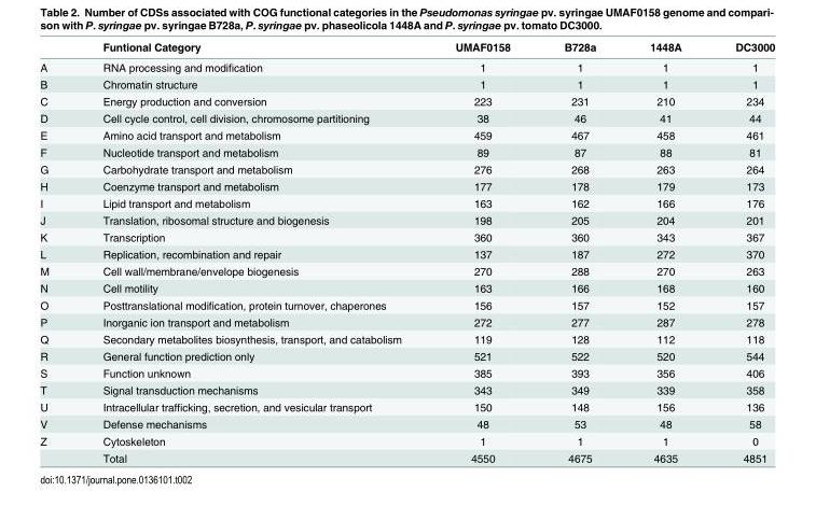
<table><thead><tr><td></td><td>Funtional Category</td><td>UMAF0158</td><td>B728a</td><td>1448A</td><td>DC3000</td></tr></thead><tbody><tr><td>A</td><td>RNA processing and modification</td><td>1</td><td>1</td><td>1</td><td>1</td></tr><tr><td>B</td><td>Chromatin structure</td><td>1</td><td>1</td><td>1</td><td>1</td></tr><tr><td>C</td><td>Energy production and conversion</td><td>223</td><td>231</td><td>210</td><td>234</td></tr><tr><td>D</td><td>Cell cycle control, cell division, chromosome partitioning</td><td>38</td><td>46</td><td>41</td><td>44</td></tr><tr><td>E</td><td>Amino acid transport and metabolism</td><td>459</td><td>467</td><td>458</td><td>461</td></tr><tr><td>F</td><td>Nucleotide transport and metabolism</td><td>89</td><td>87</td><td>88</td><td>81</td></tr><tr><td>G</td><td>Carbohydrate transport and metabolism</td><td>276</td><td>268</td><td>263</td><td>264</td></tr><tr><td>H</td><td>Coenzyme transport and metabolism</td><td>177</td><td>178</td><td>179</td><td>173</td></tr><tr><td>I</td><td>Lipid transport and metabolism</td><td>163</td><td>162</td><td>166</td><td>176</td></tr><tr><td>J</td><td>Translation, ribosomal structure and biogenesis</td><td>198</td><td>205</td><td>204</td><td>201</td></tr><tr><td>K</td><td>Transcription</td><td>360</td><td>360</td><td>343</td><td>367</td></tr><tr><td>L</td><td>Replication, recombination and repair</td><td>137</td><td>187</td><td>272</td><td>370</td></tr><tr><td>M</td><td>Cell wall/membrane/envelope biogenesis</td><td>270</td><td>288</td><td>270</td><td>263</td></tr><tr><td>N</td><td>Cell motility</td><td>163</td><td>166</td><td>168</td><td>160</td></tr><tr><td>O</td><td>Posttranslational modification, protein turnover, chaperones</td><td>156</td><td>157</td><td>152</td><td>157</td></tr><tr><td>P</td><td>Inorganic ion transport and metabolism</td><td>272</td><td>277</td><td>287</td><td>278</td></tr><tr><td>Q</td><td>Secondary metabolites biosynthesis, transport, and catabolism</td><td>119</td><td>128</td><td>112</td><td>118</td></tr><tr><td>R</td><td>General function prediction only</td><td>521</td><td>522</td><td>520</td><td>544</td></tr><tr><td>S</td><td>Function unknown</td><td>385</td><td>393</td><td>356</td><td>406</td></tr><tr><td>T</td><td>Signal transduction mechanisms</td><td>343</td><td>349</td><td>339</td><td>358</td></tr><tr><td>U</td><td>Intracellular trafficking, secretion, and vesicular transport</td><td>150</td><td>148</td><td>156</td><td>136</td></tr><tr><td>V</td><td>Defense mechanisms</td><td>48</td><td>53</td><td>48</td><td>58</td></tr><tr><td rowspan="2">Z</td><td>Cytoskeleton</td><td>1</td><td>1</td><td>1</td><td>0</td></tr><tr><td>Total</td><td>4550</td><td>4675</td><td>4635</td><td>4851</td></tr></tbody></table>